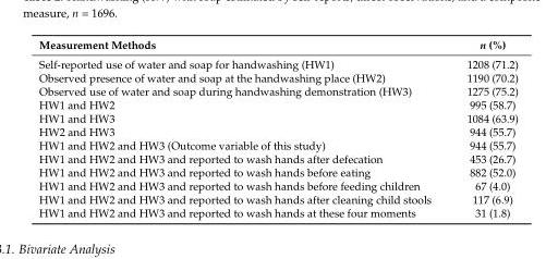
<table><thead><tr><td>Measurement Methods</td><td>n (%)</td></tr></thead><tbody><tr><td>Self-reported use of water and soap for handwashing (HW1)</td><td>1208 (71.2)</td></tr><tr><td>Observed presence of water and soap at the handwashing place (HW2)</td><td>1190 (70.2)</td></tr><tr><td>Observed use of water and soap during handwashing demonstration (HW3)</td><td>1275 (75.2)</td></tr><tr><td>HW1 and HW2</td><td>995 (58.7)</td></tr><tr><td>HW1 and HW3</td><td>1084 (63.9)</td></tr><tr><td>HW2 and HW3</td><td>944 (55.7)</td></tr><tr><td>HW1 and HW2 and HW3 (Outcome variable of this study)</td><td>944 (55.7)</td></tr><tr><td>HW1 and HW2 and HW3 and reported to wash hands after defecation</td><td>453 (26.7)</td></tr><tr><td>HW1 and HW2 and HW3 and reported to wash hands before eating</td><td>882 (52.0)</td></tr><tr><td>HW1 and HW2 and HW3 and reported to wash hands before feeding children</td><td>67 (4.0)</td></tr><tr><td>HW1 and HW2 and HW3 and reported to wash hands after cleaning child stools</td><td>117 (6.9)</td></tr><tr><td>HW1 and HW2 and HW3 and reported to wash hands at these four moments</td><td>31 (1.8)</td></tr></tbody></table>